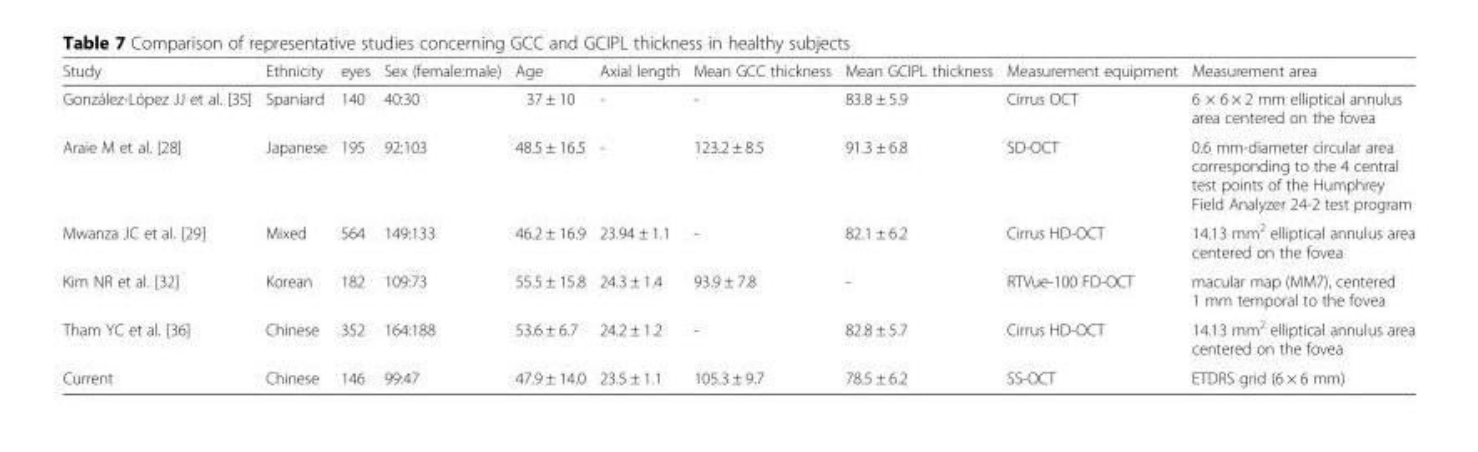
<table><thead><tr><td>Study</td><td>Ethnicity</td><td>eyes</td><td>Sex (female:male)</td><td>Age</td><td>Axial length</td><td>Mean GCC thickness</td><td>Mean GCIPL thickness</td><td>Measurement equipment</td><td>Measurement area</td></tr></thead><tbody><tr><td>González-López JJ et al. [35]</td><td>Spaniard</td><td>140</td><td>40:30</td><td>37 ± 10</td><td>-</td><td>-</td><td>83.8 ± 5.9</td><td>Cirrus OCT</td><td>6 × 6 × 2 mm elliptical annulus area centered on the fovea</td></tr><tr><td>Araie M et al. [28]</td><td>Japanese</td><td>195</td><td>92:103</td><td>48.5 ± 16.5</td><td>-</td><td>123.2 ± 8.5</td><td>91.3 ± 6.8</td><td>SD-OCT</td><td>0.6 mm-diameter circular area corresponding to the 4 central test points of the Humphrey Field Analyzer 24-2 test program</td></tr><tr><td>Mwanza JC et al. [29]</td><td>Mixed</td><td>564</td><td>149:133</td><td>46.2 ± 16.9</td><td>23.94 ± 1.1</td><td>-</td><td>82.1 ± 6.2</td><td>Cirrus HD-OCT</td><td>14.13 mm<sup>2</sup> elliptical annulus area centered on the fovea</td></tr><tr><td>Kim NR et al. [32]</td><td>Korean</td><td>182</td><td>109:73</td><td>55.5 ± 15.8</td><td>24.3 ± 1.4</td><td>93.9 ± 7.8</td><td>-</td><td>RTVue-100 FD-OCT</td><td>macular map (MM7), centered 1 mm temporal to the fovea</td></tr><tr><td>Tham YC et al. [36]</td><td>Chinese</td><td>352</td><td>164:188</td><td>53.6 ± 6.7</td><td>24.2 ± 1.2</td><td>-</td><td>82.8 ± 5.7</td><td>Cirrus HD-OCT</td><td>14.13 mm<sup>2</sup> elliptical annulus area centered on the fovea</td></tr><tr><td>Current</td><td>Chinese</td><td>146</td><td>99:47</td><td>47.9 ± 14.0</td><td>23.5 ± 1.1</td><td>105.3 ± 9.7</td><td>78.5 ± 6.2</td><td>SS-OCT</td><td>ETDRS grid (6 × 6 mm)</td></tr></tbody></table>